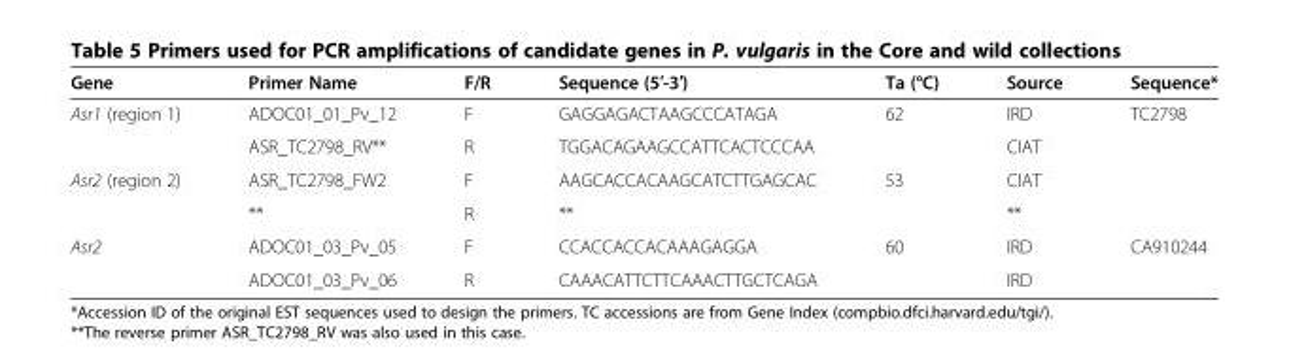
<table><thead><tr><td>Gene</td><td>Primer Name</td><td>F/R</td><td>Sequence (5′-3′)</td><td>Ta (°C)</td><td>Source</td><td>Sequence*</td></tr></thead><tbody><tr><td rowspan="2">Asr1 (region 1)</td><td>ADOC01_01_Pv_12</td><td>F</td><td>GAGGAGACTAAGCCCATAGA</td><td rowspan="2">62</td><td>IRD</td><td rowspan="4">TC2798</td></tr><tr><td>ASR_TC2798_RV**</td><td>R</td><td>TGGACAGAAGCCATTCACTCCCAA</td><td>CIAT</td></tr><tr><td rowspan="2">Asr2 (region 2)</td><td>ASR_TC2798_FW2</td><td>F</td><td>AAGCACCACAAGCATCTTGAGCAC</td><td rowspan="2">53</td><td>CIAT</td></tr><tr><td>**</td><td>R</td><td>**</td><td>**</td></tr><tr><td rowspan="2">Asr2</td><td>ADOC01_03_Pv_05</td><td>F</td><td>CCACCACCACAAAGAGGA</td><td>60</td><td>IRD</td><td>CA910244</td></tr><tr><td>ADOC01_03_Pv_06</td><td>R</td><td>CAAACATTCTTCAAACTTGCTCAGA</td><td></td><td>IRD</td><td></td></tr></tbody></table>